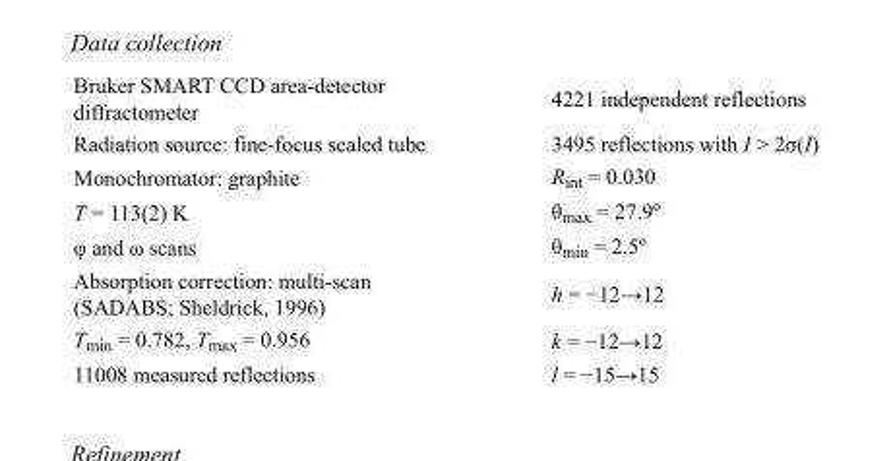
<table><tbody><tr><td>Bruker SMART CCD area-detector diffractometer</td><td>4221 independent reflections</td></tr><tr><td>Radiation source: fine-focus sealed tube</td><td>3495 reflections with I &gt; 2σ(I)</td></tr><tr><td>Monochromator: graphite</td><td>R<sub>int</sub> = 0.030</td></tr><tr><td>T = 113(2) K</td><td>θ<sub>max</sub> = 27.9º</td></tr><tr><td>φ and ω scans</td><td>θ<sub>min</sub> = 2.5º</td></tr><tr><td>Absorption correction: multi-scan (SADABS; Sheldrick, 1996)</td><td>h = −12→12</td></tr><tr><td>T<sub>min</sub> = 0.782, T<sub>max</sub> = 0.956</td><td>k = −12→12</td></tr><tr><td>11008 measured reflections</td><td>l = −15→15</td></tr></tbody></table>